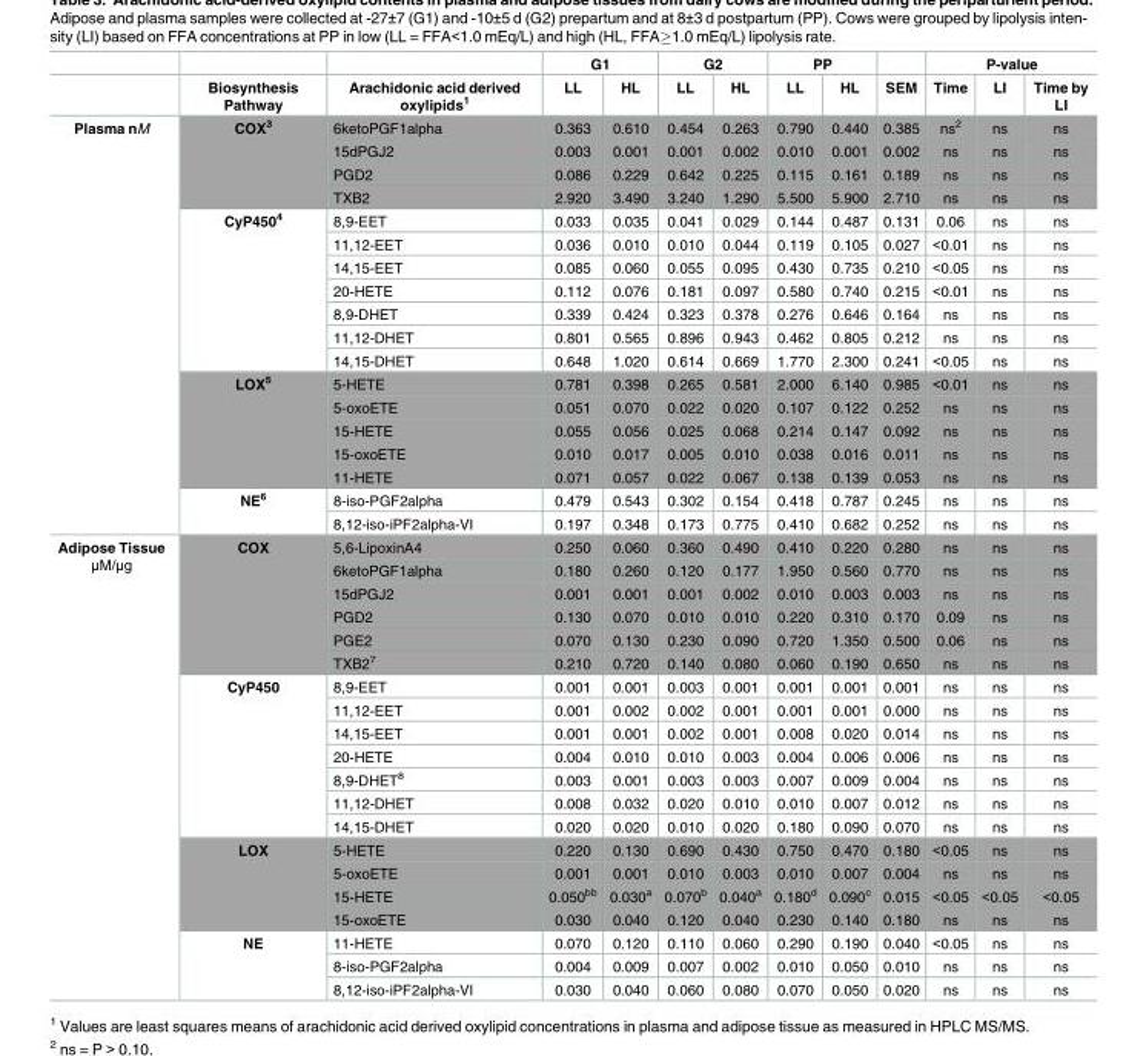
<table><thead><tr><td rowspan="2"></td><td rowspan="2">Biosynthesis Pathway</td><td rowspan="2">Arachidonic acid derived oxylipids<sup>1</sup></td><td colspan="2">G1</td><td colspan="2">G2</td><td colspan="2">PP</td><td rowspan="2">SEM</td><td colspan="3">P-value</td></tr><tr><td>LL</td><td>HL</td><td>LL</td><td>HL</td><td>LL</td><td>HL</td><td>Time</td><td>LI</td><td>Time by LI</td></tr></thead><tbody><tr><td rowspan="18">Plasma nM</td><td rowspan="4">COX<sup>3</sup></td><td>6ketoPGF1alpha</td><td>0.363</td><td>0.610</td><td>0.454</td><td>0.263</td><td>0.790</td><td>0.440</td><td>0.385</td><td>ns<sup>2</sup></td><td>ns</td><td>ns</td></tr><tr><td>15dPGJ2</td><td>0.003</td><td>0.001</td><td>0.001</td><td>0.002</td><td>0.010</td><td>0.001</td><td>0.002</td><td>ns</td><td>ns</td><td>ns</td></tr><tr><td>PGD2</td><td>0.086</td><td>0.229</td><td>0.642</td><td>0.225</td><td>0.115</td><td>0.161</td><td>0.189</td><td>ns</td><td>ns</td><td>ns</td></tr><tr><td>TXB2</td><td>2.920</td><td>3.490</td><td>3.240</td><td>1.290</td><td>5.500</td><td>5.900</td><td>2.710</td><td>ns</td><td>ns</td><td>ns</td></tr><tr><td rowspan="7">CyP450<sup>4</sup></td><td>8,9-EET</td><td>0.033</td><td>0.035</td><td>0.041</td><td>0.029</td><td>0.144</td><td>0.487</td><td>0.131</td><td>0.06</td><td>ns</td><td>ns</td></tr><tr><td>11,12-EET</td><td>0.036</td><td>0.010</td><td>0.010</td><td>0.044</td><td>0.119</td><td>0.105</td><td>0.027</td><td>&lt;0.01</td><td>ns</td><td>ns</td></tr><tr><td>14,15-EET</td><td>0.085</td><td>0.060</td><td>0.055</td><td>0.095</td><td>0.430</td><td>0.735</td><td>0.210</td><td>&lt;0.05</td><td>ns</td><td>ns</td></tr><tr><td>20-HETE</td><td>0.112</td><td>0.076</td><td>0.181</td><td>0.097</td><td>0.580</td><td>0.740</td><td>0.215</td><td>&lt;0.01</td><td>ns</td><td>ns</td></tr><tr><td>8,9-DHET</td><td>0.339</td><td>0.424</td><td>0.323</td><td>0.378</td><td>0.276</td><td>0.646</td><td>0.164</td><td>ns</td><td>ns</td><td>ns</td></tr><tr><td>11,12-DHET</td><td>0.801</td><td>0.565</td><td>0.896</td><td>0.943</td><td>0.462</td><td>0.805</td><td>0.212</td><td>ns</td><td>ns</td><td>ns</td></tr><tr><td>14,15-DHET</td><td>0.648</td><td>1.020</td><td>0.614</td><td>0.669</td><td>1.770</td><td>2.300</td><td>0.241</td><td>&lt;0.05</td><td>ns</td><td>ns</td></tr><tr><td rowspan="5">LOX<sup>5</sup></td><td>5-HETE</td><td>0.781</td><td>0.398</td><td>0.265</td><td>0.581</td><td>2.000</td><td>6.140</td><td>0.985</td><td>&lt;0.01</td><td>ns</td><td>ns</td></tr><tr><td>5-oxoETE</td><td>0.051</td><td>0.070</td><td>0.022</td><td>0.020</td><td>0.107</td><td>0.122</td><td>0.252</td><td>ns</td><td>ns</td><td>ns</td></tr><tr><td>15-HETE</td><td>0.055</td><td>0.056</td><td>0.025</td><td>0.068</td><td>0.214</td><td>0.147</td><td>0.092</td><td>ns</td><td>ns</td><td>ns</td></tr><tr><td>15-oxoETE</td><td>0.010</td><td>0.017</td><td>0.005</td><td>0.010</td><td>0.038</td><td>0.016</td><td>0.011</td><td>ns</td><td>ns</td><td>ns</td></tr><tr><td>11-HETE</td><td>0.071</td><td>0.057</td><td>0.022</td><td>0.067</td><td>0.138</td><td>0.139</td><td>0.053</td><td>ns</td><td>ns</td><td>ns</td></tr><tr><td rowspan="2">NE<sup>6</sup></td><td>8-iso-PGF2alpha</td><td>0.479</td><td>0.543</td><td>0.302</td><td>0.154</td><td>0.418</td><td>0.787</td><td>0.245</td><td>ns</td><td>ns</td><td>ns</td></tr><tr><td>8,12-iso-iPF2alpha-VI</td><td>0.197</td><td>0.348</td><td>0.173</td><td>0.775</td><td>0.410</td><td>0.682</td><td>0.252</td><td>ns</td><td>ns</td><td>ns</td></tr><tr><td rowspan="20">Adipose Tissue μM/μg</td><td rowspan="6">COX</td><td>5,6-LipoxinA4</td><td>0.250</td><td>0.060</td><td>0.360</td><td>0.490</td><td>0.410</td><td>0.220</td><td>0.280</td><td>ns</td><td>ns</td><td>ns</td></tr><tr><td>6ketoPGF1alpha</td><td>0.180</td><td>0.260</td><td>0.120</td><td>0.177</td><td>1.950</td><td>0.560</td><td>0.770</td><td>ns</td><td>ns</td><td>ns</td></tr><tr><td>15dPGJ2</td><td>0.001</td><td>0.001</td><td>0.001</td><td>0.002</td><td>0.010</td><td>0.003</td><td>0.003</td><td>ns</td><td>ns</td><td>ns</td></tr><tr><td>PGD2</td><td>0.130</td><td>0.070</td><td>0.010</td><td>0.010</td><td>0.220</td><td>0.310</td><td>0.170</td><td>0.09</td><td>ns</td><td>ns</td></tr><tr><td>PGE2</td><td>0.070</td><td>0.130</td><td>0.230</td><td>0.090</td><td>0.720</td><td>1.350</td><td>0.500</td><td>0.06</td><td>ns</td><td>ns</td></tr><tr><td>TXB2<sup>7</sup></td><td>0.210</td><td>0.720</td><td>0.140</td><td>0.080</td><td>0.060</td><td>0.190</td><td>0.650</td><td>ns</td><td>ns</td><td>ns</td></tr><tr><td rowspan="7">CyP450</td><td>8,9-EET</td><td>0.001</td><td>0.001</td><td>0.003</td><td>0.001</td><td>0.001</td><td>0.001</td><td>0.001</td><td>ns</td><td>ns</td><td>ns</td></tr><tr><td>11,12-EET</td><td>0.001</td><td>0.002</td><td>0.002</td><td>0.001</td><td>0.001</td><td>0.001</td><td>0.000</td><td>ns</td><td>ns</td><td>ns</td></tr><tr><td>14,15-EET</td><td>0.001</td><td>0.001</td><td>0.002</td><td>0.001</td><td>0.008</td><td>0.020</td><td>0.014</td><td>ns</td><td>ns</td><td>ns</td></tr><tr><td>20-HETE</td><td>0.004</td><td>0.010</td><td>0.010</td><td>0.003</td><td>0.004</td><td>0.006</td><td>0.006</td><td>ns</td><td>ns</td><td>ns</td></tr><tr><td>8,9-DHET<sup>8</sup></td><td>0.003</td><td>0.001</td><td>0.003</td><td>0.003</td><td>0.007</td><td>0.009</td><td>0.004</td><td>ns</td><td>ns</td><td>ns</td></tr><tr><td>11,12-DHET</td><td>0.008</td><td>0.032</td><td>0.020</td><td>0.010</td><td>0.010</td><td>0.007</td><td>0.012</td><td>ns</td><td>ns</td><td>ns</td></tr><tr><td>14,15-DHET</td><td>0.020</td><td>0.020</td><td>0.010</td><td>0.020</td><td>0.180</td><td>0.090</td><td>0.070</td><td>ns</td><td>ns</td><td>ns</td></tr><tr><td rowspan="4">LOX</td><td>5-HETE</td><td>0.220</td><td>0.130</td><td>0.690</td><td>0.430</td><td>0.750</td><td>0.470</td><td>0.180</td><td>&lt;0.05</td><td>ns</td><td>ns</td></tr><tr><td>5-oxoETE</td><td>0.001</td><td>0.001</td><td>0.010</td><td>0.003</td><td>0.010</td><td>0.007</td><td>0.004</td><td>ns</td><td>ns</td><td>ns</td></tr><tr><td>15-HETE</td><td>0.050<sup>bb</sup></td><td>0.030<sup>a</sup></td><td>0.070<sup>b</sup></td><td>0.040<sup>a</sup></td><td>0.180<sup>d</sup></td><td>0.090<sup>c</sup></td><td>0.015</td><td>&lt;0.05</td><td>&lt;0.05</td><td>&lt;0.05</td></tr><tr><td>15-oxoETE</td><td>0.030</td><td>0.040</td><td>0.120</td><td>0.040</td><td>0.230</td><td>0.140</td><td>0.180</td><td>ns</td><td>ns</td><td>ns</td></tr><tr><td rowspan="3">NE</td><td>11-HETE</td><td>0.070</td><td>0.120</td><td>0.110</td><td>0.060</td><td>0.290</td><td>0.190</td><td>0.040</td><td>&lt;0.05</td><td>ns</td><td>ns</td></tr><tr><td>8-iso-PGF2alpha</td><td>0.004</td><td>0.009</td><td>0.007</td><td>0.002</td><td>0.010</td><td>0.050</td><td>0.010</td><td>ns</td><td>ns</td><td>ns</td></tr><tr><td>8,12-iso-iPF2alpha-VI</td><td>0.030</td><td>0.040</td><td>0.060</td><td>0.080</td><td>0.070</td><td>0.050</td><td>0.020</td><td>ns</td><td>ns</td><td>ns</td></tr></tbody></table>